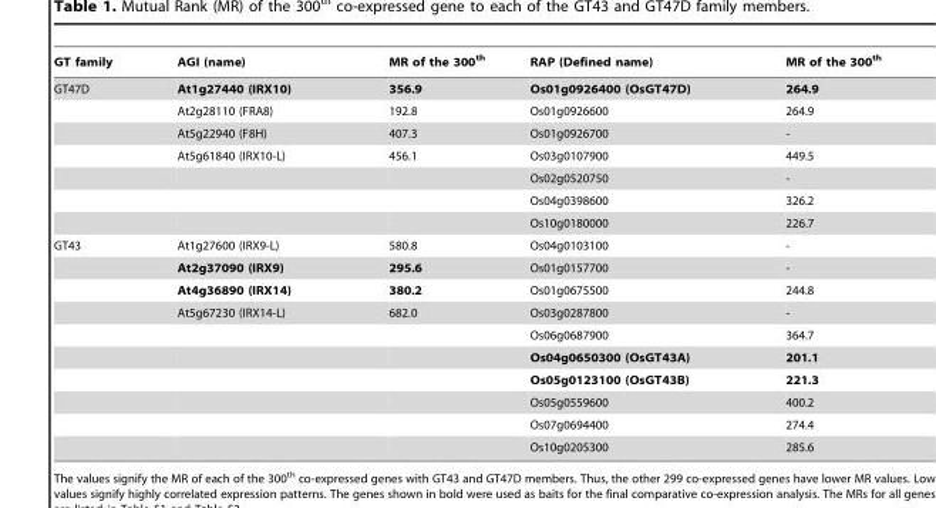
<table><thead><tr><td>GT family</td><td>AGI (name)</td><td>MR of the 300<sup>th</sup></td><td>RAP (Defined name)</td><td>MR of the 300<sup>th</sup></td></tr></thead><tbody><tr><td rowspan="7">GT47D</td><td>At1g27440 (IRX10)</td><td>356.9</td><td>Os01g0926400 (OsGT47D)</td><td>264.9</td></tr><tr><td>At2g28110 (FRA8)</td><td>192.8</td><td>Os01g0926600</td><td>264.9</td></tr><tr><td>At5g22940 (F8H)</td><td>407.3</td><td>Os01g0926700</td><td>-</td></tr><tr><td>At5g61840 (IRX10-L)</td><td>456.1</td><td>Os03g0107900</td><td>449.5</td></tr><tr><td></td><td></td><td>Os02g0520750</td><td>-</td></tr><tr><td></td><td></td><td>Os04g0398600</td><td>326.2</td></tr><tr><td></td><td></td><td>Os10g0180000</td><td>226.7</td></tr><tr><td rowspan="10">GT43</td><td>At1g27600 (IRX9-L)</td><td>580.8</td><td>Os04g0103100</td><td>-</td></tr><tr><td>At2g37090 (IRX9)</td><td>295.6</td><td>Os01g0157700</td><td>-</td></tr><tr><td>At4g36890 (IRX14)</td><td>380.2</td><td>Os01g0675500</td><td>244.8</td></tr><tr><td>At5g67230 (IRX14-L)</td><td>682.0</td><td>Os03g0287800</td><td>-</td></tr><tr><td></td><td></td><td>Os06g0687900</td><td>364.7</td></tr><tr><td></td><td></td><td>Os04g0650300 (OsGT43A)</td><td>201.1</td></tr><tr><td></td><td></td><td>Os05g0123100 (OsGT43B)</td><td>221.3</td></tr><tr><td></td><td></td><td>Os05g0559600</td><td>400.2</td></tr><tr><td></td><td></td><td>Os07g0694400</td><td>274.4</td></tr><tr><td></td><td></td><td>Os10g0205300</td><td>285.6</td></tr></tbody></table>